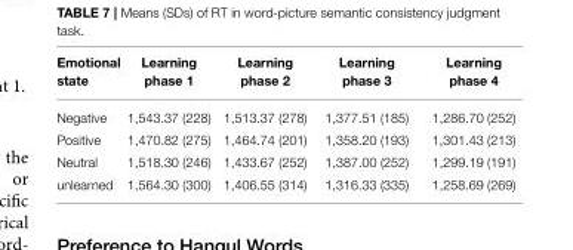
<table><thead><tr><td>Emotional state</td><td>Learning phase 1</td><td>Learning phase 2</td><td>Learning phase 3</td><td>Learning phase 4</td></tr></thead><tbody><tr><td>Negative</td><td>1,543.37 (228)</td><td>1,513.37 (278)</td><td>1,377.51 (185)</td><td>1,286.70 (252)</td></tr><tr><td>Positive</td><td>1,470.82 (275)</td><td>1,464.74 (201)</td><td>1,358.20 (193)</td><td>1,301.43 (213)</td></tr><tr><td>Neutral</td><td>1,518.30 (246)</td><td>1,433.67 (252)</td><td>1,387.00 (252)</td><td>1,299.19 (191)</td></tr><tr><td>unlearned</td><td>1,564.30 (300)</td><td>1,406.55 (314)</td><td>1,316.33 (335)</td><td>1,258.69 (269)</td></tr></tbody></table>